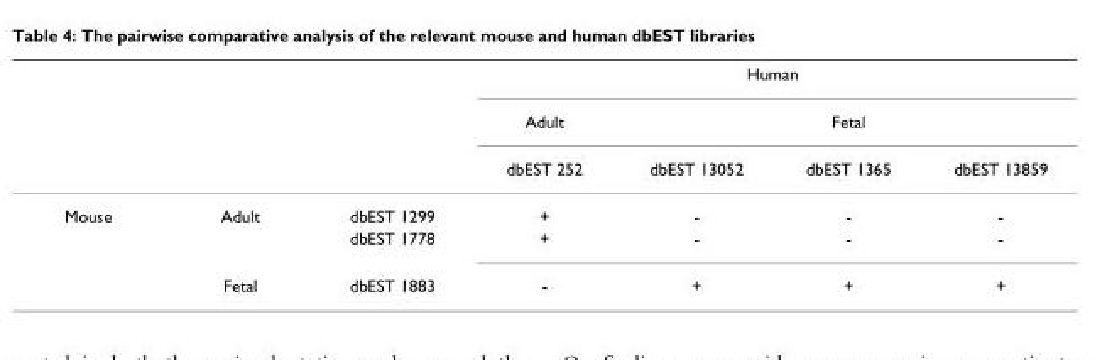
<table><thead><tr><td rowspan="3"></td><td rowspan="3"></td><td rowspan="3"></td><td colspan="4">Human</td></tr><tr><td rowspan="2">Adult dbEST 252</td><td colspan="3">Fetal</td></tr><tr><td>dbEST 13052</td><td>dbEST 1365</td><td>dbEST 13859</td></tr></thead><tbody><tr><td rowspan="3">Mouse</td><td>Adult</td><td>dbEST 1299</td><td>+</td><td>-</td><td>-</td><td>-</td></tr><tr><td></td><td>dbEST 1778</td><td>+</td><td>-</td><td>-</td><td>-</td></tr><tr><td>Fetal</td><td>dbEST 1883</td><td>-</td><td>+</td><td>+</td><td>+</td></tr></tbody></table>